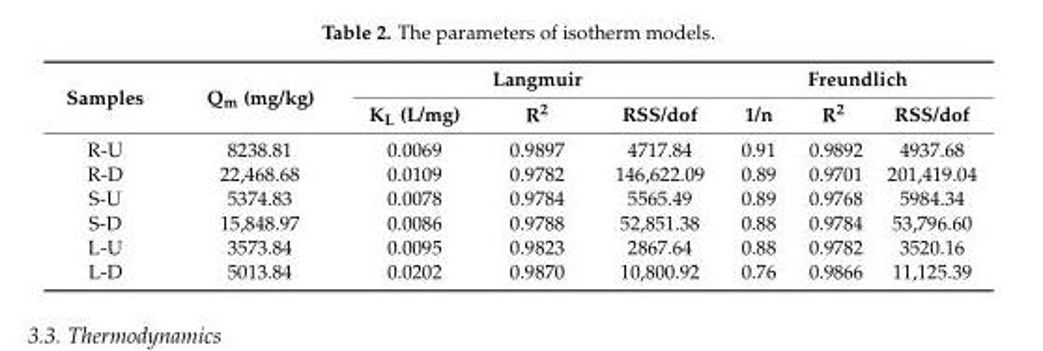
<table><thead><tr><td rowspan="2">Samples</td><td rowspan="2">Q<sub>m</sub> (mg/kg)</td><td colspan="3">Langmuir</td><td colspan="3">Freundlich</td></tr><tr><td>K<sub>L</sub> (L/mg)</td><td>R<sup>2</sup></td><td>RSS/dof</td><td>1/n</td><td>R<sup>2</sup></td><td>RSS/dof</td></tr></thead><tbody><tr><td>R-U</td><td>8238.81</td><td>0.0069</td><td>0.9897</td><td>4717.84</td><td>0.91</td><td>0.9892</td><td>4937.68</td></tr><tr><td>R-D</td><td>22,468.68</td><td>0.0109</td><td>0.9782</td><td>146,622.09</td><td>0.89</td><td>0.9701</td><td>201,419.04</td></tr><tr><td>S-U</td><td>5374.83</td><td>0.0078</td><td>0.9784</td><td>5565.49</td><td>0.89</td><td>0.9768</td><td>5984.34</td></tr><tr><td>S-D</td><td>15,848.97</td><td>0.0086</td><td>0.9788</td><td>52,851.38</td><td>0.88</td><td>0.9784</td><td>53,796.60</td></tr><tr><td>L-U</td><td>3573.84</td><td>0.0095</td><td>0.9823</td><td>2867.64</td><td>0.88</td><td>0.9782</td><td>3520.16</td></tr><tr><td>L-D</td><td>5013.84</td><td>0.0202</td><td>0.9870</td><td>10,800.92</td><td>0.76</td><td>0.9866</td><td>11,125.39</td></tr></tbody></table>